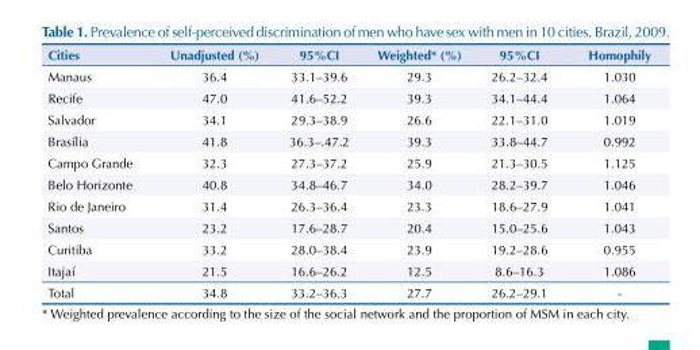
<table><thead><tr><td>Cities</td><td>Unadjusted (%)</td><td>95%CI</td><td>Weighted* (%)</td><td>95%CI</td><td>Homophily</td></tr></thead><tbody><tr><td>Manaus</td><td>36.4</td><td>33.1–39.6</td><td>29.3</td><td>26.2–32.4</td><td>1.030</td></tr><tr><td>Recife</td><td>47.0</td><td>41.6–52.2</td><td>39.3</td><td>34.1–44.4</td><td>1.064</td></tr><tr><td>Salvador</td><td>34.1</td><td>29.3–38.9</td><td>26.6</td><td>22.1–31.0</td><td>1.019</td></tr><tr><td>Brasília</td><td>41.8</td><td>36.3–.47.2</td><td>39.3</td><td>33.8–44.7</td><td>0.992</td></tr><tr><td>Campo Grande</td><td>32.3</td><td>27.3–37.2</td><td>25.9</td><td>21.3–30.5</td><td>1.125</td></tr><tr><td>Belo Horizonte</td><td>40.8</td><td>34.8–46.7</td><td>34.0</td><td>28.2–39.7</td><td>1.046</td></tr><tr><td>Rio de Janeiro</td><td>31.4</td><td>26.3–36.4</td><td>23.3</td><td>18.6–27.9</td><td>1.041</td></tr><tr><td>Santos</td><td>23.2</td><td>17.6–28.7</td><td>20.4</td><td>15.0–25.6</td><td>1.043</td></tr><tr><td>Curitiba</td><td>33.2</td><td>28.0–38.4</td><td>23.9</td><td>19.2–28.6</td><td>0.955</td></tr><tr><td>Itajaí</td><td>21.5</td><td>16.6–26.2</td><td>12.5</td><td>8.6–16.3</td><td>1.086</td></tr><tr><td>Total</td><td>34.8</td><td>33.2–36.3</td><td>27.7</td><td>26.2–29.1</td><td>-</td></tr></tbody></table>